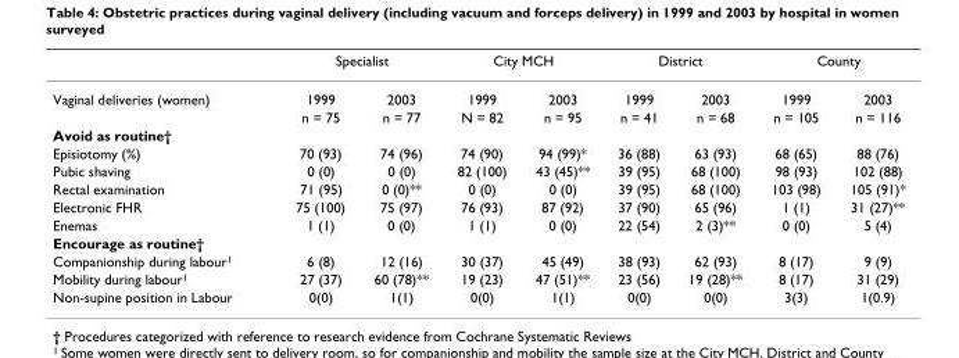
<table><thead><tr><td rowspan="2">Vaginal deliveries (women)</td><td colspan="2">Specialist</td><td colspan="2">City MCH</td><td colspan="2">District</td><td colspan="2">County</td></tr><tr><td>1999</td><td>2003</td><td>1999</td><td>2003</td><td>1999</td><td>2003</td><td>1999</td><td>2003</td></tr></thead><tbody><tr><td></td><td>n = 75</td><td>n = 77</td><td>N = 82</td><td>n = 95</td><td>n = 41</td><td>n = 68</td><td>n = 105</td><td>n = 116</td></tr><tr><td colspan="9">Avoid as routine†</td></tr><tr><td>Episiotomy (%)</td><td>70 (93)</td><td>74 (96)</td><td>74 (90)</td><td>94 (99)*</td><td>36 (88)</td><td>63 (93)</td><td>68 (65)</td><td>88 (76)</td></tr><tr><td>Pubic shaving</td><td>0 (0)</td><td>0 (0)</td><td>82 (100)</td><td>43 (45)**</td><td>39 (95)</td><td>68 (100)</td><td>98 (93)</td><td>102 (88)</td></tr><tr><td>Rectal examination</td><td>71 (95)</td><td>0 (0)**</td><td>0 (0)</td><td>0 (0)</td><td>39 (95)</td><td>68 (100)</td><td>103 (98)</td><td>105 (91)*</td></tr><tr><td>Electronic FHR</td><td>75 (100)</td><td>75 (97)</td><td>76 (93)</td><td>87 (92)</td><td>37 (90)</td><td>65 (96)</td><td>1 (1)</td><td>31 (27)**</td></tr><tr><td>Enemas</td><td>1 (1)</td><td>0 (0)</td><td>1 (1)</td><td>0 (0)</td><td>22 (54)</td><td>2 (3)**</td><td>0 (0)</td><td>5 (4)</td></tr><tr><td colspan="9">Encourage as routine†</td></tr><tr><td>Companionship during labour1</td><td>6 (8)</td><td>12 (16)</td><td>30 (37)</td><td>45 (49)</td><td>38 (93)</td><td>62 (93)</td><td>8 (17)</td><td>9 (9)</td></tr><tr><td>Mobility during labour1</td><td>27 (37)</td><td>60 (78)**</td><td>19 (23)</td><td>47 (51)**</td><td>23 (56)</td><td>19 (28)**</td><td>8 (17)</td><td>31 (29)</td></tr><tr><td>Non-supine position in Labour</td><td>0(0)</td><td>1(1)</td><td>0(0)</td><td>1(1)</td><td>0(0)</td><td>0(0)</td><td>3(3)</td><td>1(0.9)</td></tr></tbody></table>